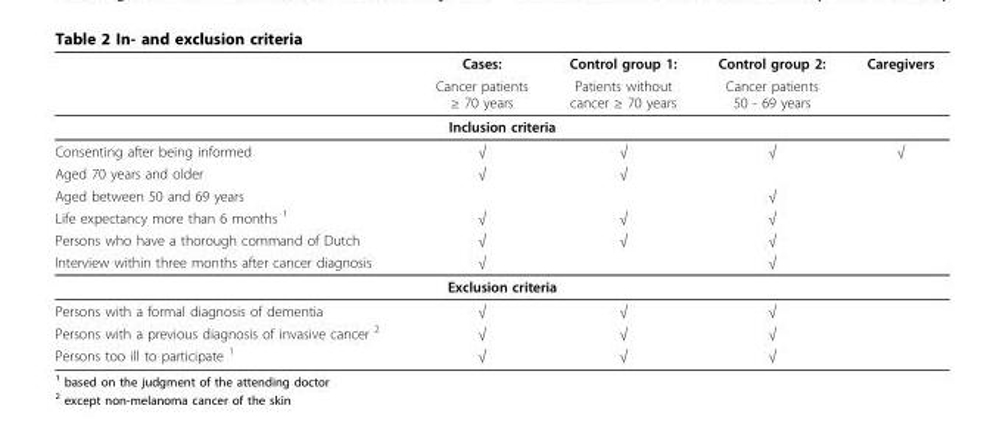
<table><thead><tr><td rowspan="2"></td><td rowspan="2">Cases: Cancer patients ≥ 70 years</td><td rowspan="2">Control group 1: Patients without cancer ≥ 70 years</td><td rowspan="2">Control group 2: Cancer patients 50 - 69 years</td><td rowspan="2">Caregivers</td></tr><tr></tr></thead><tbody><tr><td colspan="5">Inclusion criteria</td></tr><tr><td>Consenting after being informed</td><td>√</td><td>√</td><td>√</td><td>√</td></tr><tr><td>Aged 70 years and older</td><td>√</td><td>√</td><td></td><td></td></tr><tr><td>Aged between 50 and 69 years</td><td></td><td></td><td>√</td><td></td></tr><tr><td>Life expectancy more than 6 months <sup>1</sup></td><td>√</td><td>√</td><td>√</td><td></td></tr><tr><td>Persons who have a thorough command of Dutch</td><td>√</td><td>√</td><td>√</td><td></td></tr><tr><td>Interview within three months after cancer diagnosis</td><td>√</td><td></td><td>√</td><td></td></tr><tr><td colspan="5">Exclusion criteria</td></tr><tr><td>Persons with a formal diagnosis of dementia</td><td>√</td><td>√</td><td>√</td><td></td></tr><tr><td>Persons with a previous diagnosis of invasive cancer <sup>2</sup></td><td>√</td><td>√</td><td>√</td><td></td></tr><tr><td>Persons too ill to participate <sup>1</sup></td><td>√</td><td>√</td><td>√</td><td></td></tr></tbody></table>